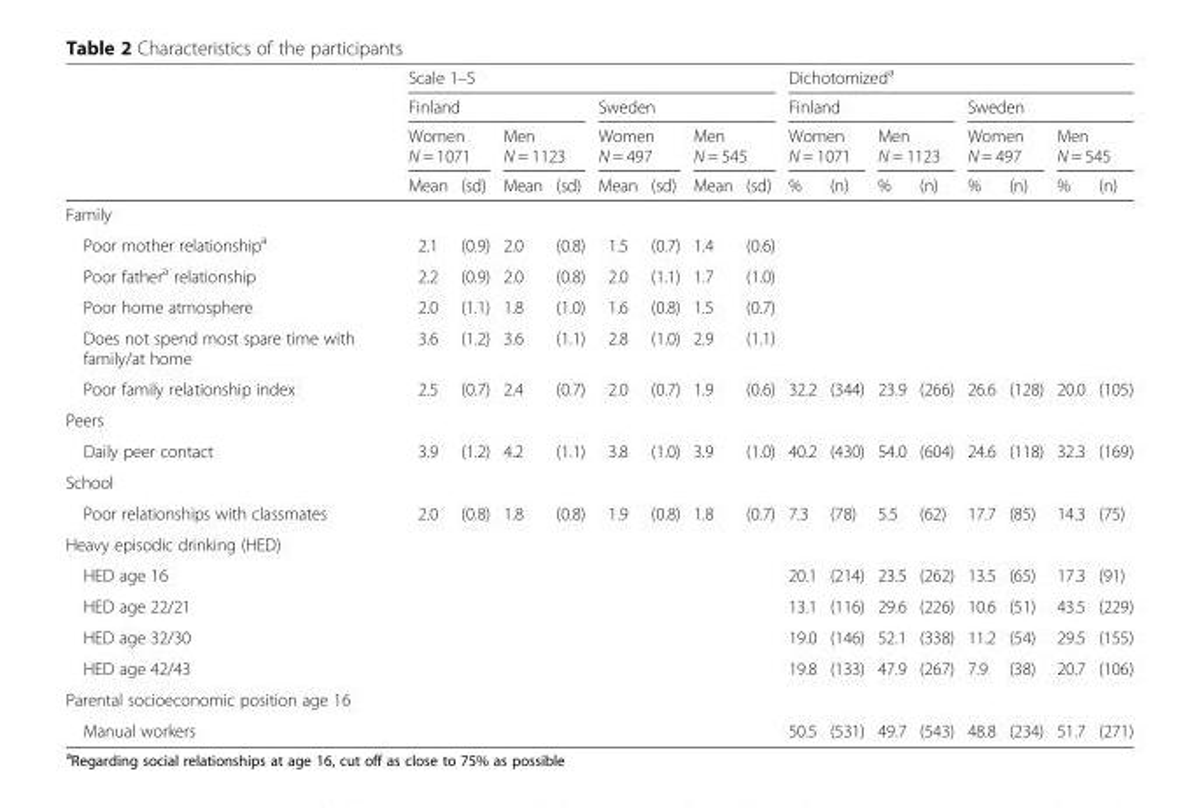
<table><thead><tr><td rowspan="4"></td><td colspan="8">Scale 1–5</td><td colspan="8">Dichotomized<sup>a</sup></td></tr><tr><td colspan="4">Finland</td><td colspan="4">Sweden</td><td colspan="4">Finland</td><td colspan="4">Sweden</td></tr><tr><td colspan="2">Women N = 1071</td><td colspan="2">Men N = 1123</td><td colspan="2">Women N = 497</td><td colspan="2">Men N = 545</td><td colspan="2">Women N = 1071</td><td colspan="2">Men N = 1123</td><td colspan="2">Women N = 497</td><td colspan="2">Men N = 545</td></tr><tr><td>Mean</td><td>(sd)</td><td>Mean</td><td>(sd)</td><td>Mean</td><td>(sd)</td><td>Mean</td><td>(sd)</td><td>%</td><td>(n)</td><td>%</td><td>(n)</td><td>%</td><td>(n)</td><td>%</td><td>(n)</td></tr></thead><tbody><tr><td colspan="17">Family</td></tr><tr><td>Poor mother relationship<sup>a</sup></td><td>2.1</td><td>(0.9)</td><td>2.0</td><td>(0.8)</td><td>1.5</td><td>(0.7)</td><td>1.4</td><td>(0.6)</td><td></td><td></td><td></td><td></td><td></td><td></td><td></td><td></td></tr><tr><td>Poor father<sup>a</sup> relationship</td><td>2.2</td><td>(0.9)</td><td>2.0</td><td>(0.8)</td><td>2.0</td><td>(1.1)</td><td>1.7</td><td>(1.0)</td><td></td><td></td><td></td><td></td><td></td><td></td><td></td><td></td></tr><tr><td>Poor home atmosphere</td><td>2.0</td><td>(1.1)</td><td>1.8</td><td>(1.0)</td><td>1.6</td><td>(0.8)</td><td>1.5</td><td>(0.7)</td><td></td><td></td><td></td><td></td><td></td><td></td><td></td><td></td></tr><tr><td>Does not spend most spare time with family/at home</td><td>3.6</td><td>(1.2)</td><td>3.6</td><td>(1.1)</td><td>2.8</td><td>(1.0)</td><td>2.9</td><td>(1.1)</td><td></td><td></td><td></td><td></td><td></td><td></td><td></td><td></td></tr><tr><td>Poor family relationship index</td><td>2.5</td><td>(0.7)</td><td>2.4</td><td>(0.7)</td><td>2.0</td><td>(0.7)</td><td>1.9</td><td>(0.6)</td><td>32.2</td><td>(344)</td><td>23.9</td><td>(266)</td><td>26.6</td><td>(128)</td><td>20.0</td><td>(105)</td></tr><tr><td colspan="17">Peers</td></tr><tr><td>Daily peer contact</td><td>3.9</td><td>(1.2)</td><td>4.2</td><td>(1.1)</td><td>3.8</td><td>(1.0)</td><td>3.9</td><td>(1.0)</td><td>40.2</td><td>(430)</td><td>54.0</td><td>(604)</td><td>24.6</td><td>(118)</td><td>32.3</td><td>(169)</td></tr><tr><td colspan="17">School</td></tr><tr><td>Poor relationships with classmates</td><td>2.0</td><td>(0.8)</td><td>1.8</td><td>(0.8)</td><td>1.9</td><td>(0.8)</td><td>1.8</td><td>(0.7)</td><td>7.3</td><td>(78)</td><td>5.5</td><td>(62)</td><td>17.7</td><td>(85)</td><td>14.3</td><td>(75)</td></tr><tr><td colspan="17">Heavy episodic drinking (HED)</td></tr><tr><td>HED age 16</td><td></td><td></td><td></td><td></td><td></td><td></td><td></td><td></td><td>20.1</td><td>(214)</td><td>23.5</td><td>(262)</td><td>13.5</td><td>(65)</td><td>17.3</td><td>(91)</td></tr><tr><td>HED age 22/21</td><td></td><td></td><td></td><td></td><td></td><td></td><td></td><td></td><td>13.1</td><td>(116)</td><td>29.6</td><td>(226)</td><td>10.6</td><td>(51)</td><td>43.5</td><td>(229)</td></tr><tr><td>HED age 32/30</td><td></td><td></td><td></td><td></td><td></td><td></td><td></td><td></td><td>19.0</td><td>(146)</td><td>52.1</td><td>(338)</td><td>11.2</td><td>(54)</td><td>29.5</td><td>(155)</td></tr><tr><td>HED age 42/43</td><td></td><td></td><td></td><td></td><td></td><td></td><td></td><td></td><td>19.8</td><td>(133)</td><td>47.9</td><td>(267)</td><td>7.9</td><td>(38)</td><td>20.7</td><td>(106)</td></tr><tr><td colspan="17">Parental socioeconomic position age 16</td></tr><tr><td>Manual workers</td><td></td><td></td><td></td><td></td><td></td><td></td><td></td><td></td><td>50.5</td><td>(531)</td><td>49.7</td><td>(543)</td><td>48.8</td><td>(234)</td><td>51.7</td><td>(271)</td></tr></tbody></table>